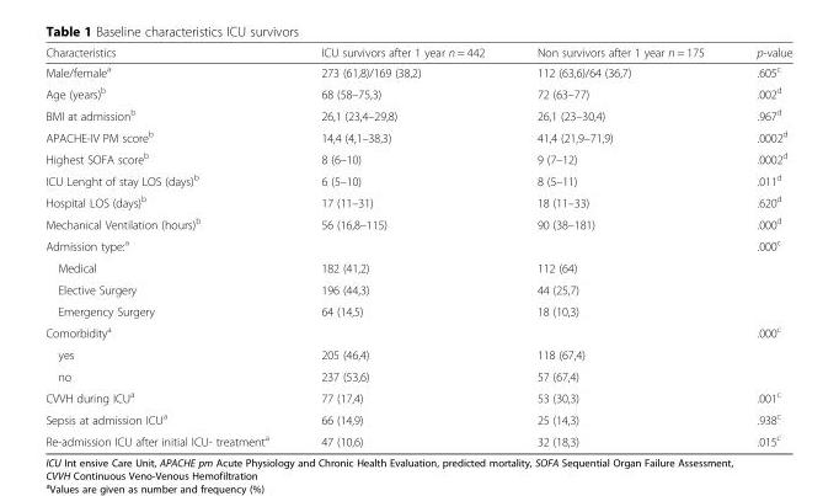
<table><thead><tr><td>Characteristics</td><td>ICU survivors after 1 year n = 442</td><td>Non survivors after 1 year n = 175</td><td>p-value</td></tr></thead><tbody><tr><td>Male/female<sup>a</sup></td><td>273 (61,8)/169 (38,2)</td><td>112 (63,6)/64 (36,7)</td><td>.605<sup>c</sup></td></tr><tr><td>Age (years)<sup>b</sup></td><td>68 (58–75,3)</td><td>72 (63–77)</td><td>.002<sup>d</sup></td></tr><tr><td>BMI at admission<sup>b</sup></td><td>26,1 (23,4–29,8)</td><td>26,1 (23–30,4)</td><td>.967<sup>d</sup></td></tr><tr><td>APACHE-IV PM score<sup>b</sup></td><td>14,4 (4,1–38,3)</td><td>41,4 (21,9–71,9)</td><td>.0002<sup>d</sup></td></tr><tr><td>Highest SOFA score<sup>b</sup></td><td>8 (6–10)</td><td>9 (7–12)</td><td>.0002<sup>d</sup></td></tr><tr><td>ICU Lenght of stay LOS (days)<sup>b</sup></td><td>6 (5–10)</td><td>8 (5–11)</td><td>.011<sup>d</sup></td></tr><tr><td>Hospital LOS (days)<sup>b</sup></td><td>17 (11–31)</td><td>18 (11–33)</td><td>.620<sup>d</sup></td></tr><tr><td>Mechanical Ventilation (hours)<sup>b</sup></td><td>56 (16,8–115)</td><td>90 (38–181)</td><td>.000<sup>d</sup></td></tr><tr><td>Admission type:<sup>a</sup></td><td></td><td></td><td>.000<sup>c</sup></td></tr><tr><td>Medical</td><td>182 (41,2)</td><td>112 (64)</td><td></td></tr><tr><td>Elective Surgery</td><td>196 (44,3)</td><td>44 (25,7)</td><td></td></tr><tr><td>Emergency Surgery</td><td>64 (14,5)</td><td>18 (10,3)</td><td></td></tr><tr><td>Comorbidity<sup>a</sup></td><td></td><td></td><td>.000<sup>c</sup></td></tr><tr><td>yes</td><td>205 (46,4)</td><td>118 (67,4)</td><td></td></tr><tr><td>no</td><td>237 (53,6)</td><td>57 (67,4)</td><td></td></tr><tr><td>CVVH during ICU<sup>a</sup></td><td>77 (17,4)</td><td>53 (30,3)</td><td>.001<sup>c</sup></td></tr><tr><td>Sepsis at admission ICU<sup>a</sup></td><td>66 (14,9)</td><td>25 (14,3)</td><td>.938<sup>c</sup></td></tr><tr><td>Re-admission ICU after initial ICU- treatment<sup>a</sup></td><td>47 (10,6)</td><td>32 (18,3)</td><td>.015<sup>c</sup></td></tr></tbody></table>